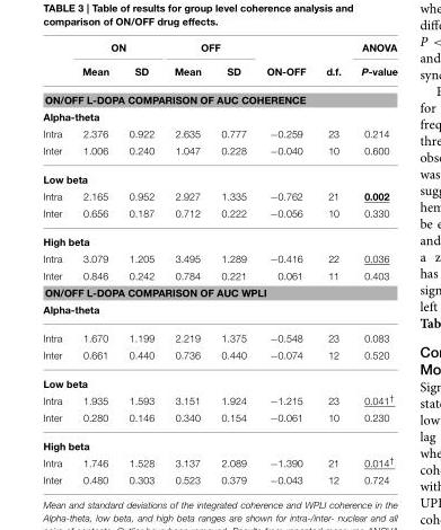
<table><thead><tr><td rowspan="2"></td><td colspan="2">ON</td><td colspan="2">OFF</td><td rowspan="2">ON-OFF</td><td rowspan="2">d.f.</td><td rowspan="2">ANOVA P-value</td></tr><tr><td>Mean</td><td>SD</td><td>Mean</td><td>SD</td></tr></thead><tbody><tr><td colspan="8">ON/OFF L-DOPA COMPARISON OF AUC COHERENCE</td></tr><tr><td colspan="8">Alpha-theta</td></tr><tr><td>Intra</td><td>2.376</td><td>0.922</td><td>2.635</td><td>0.777</td><td>−0.259</td><td>23</td><td>0.214</td></tr><tr><td>Inter</td><td>1.006</td><td>0.240</td><td>1.047</td><td>0.228</td><td>−0.040</td><td>10</td><td>0.600</td></tr><tr><td colspan="8">Low beta</td></tr><tr><td>Intra</td><td>2.165</td><td>0.952</td><td>2.927</td><td>1.335</td><td>−0.762</td><td>21</td><td>0.002</td></tr><tr><td>Inter</td><td>0.656</td><td>0.187</td><td>0.712</td><td>0.222</td><td>−0.056</td><td>10</td><td>0.330</td></tr><tr><td colspan="8">High beta</td></tr><tr><td>Intra</td><td>3.079</td><td>1.205</td><td>3.495</td><td>1.289</td><td>−0.416</td><td>22</td><td>0.036</td></tr><tr><td>Inter</td><td>0.846</td><td>0.242</td><td>0.784</td><td>0.221</td><td>0.061</td><td>11</td><td>0.403</td></tr><tr><td colspan="8">ON/OFF L-DOPA COMPARISON OF AUC WPLI</td></tr><tr><td colspan="8">Alpha-theta</td></tr><tr><td>Intra</td><td>1.670</td><td>1.199</td><td>2.219</td><td>1.375</td><td>−0.548</td><td>23</td><td>0.083</td></tr><tr><td>Inter</td><td>0.661</td><td>0.440</td><td>0.736</td><td>0.440</td><td>−0.074</td><td>12</td><td>0.520</td></tr><tr><td colspan="8">Low beta</td></tr><tr><td>Intra</td><td>1.935</td><td>1.593</td><td>3.151</td><td>1.924</td><td>−1.215</td><td>23</td><td>0.041<sup>†</sup></td></tr><tr><td>Inter</td><td>0.280</td><td>0.146</td><td>0.340</td><td>0.154</td><td>−0.061</td><td>10</td><td>0.230</td></tr><tr><td colspan="8">High beta</td></tr><tr><td>Intra</td><td>1.746</td><td>1.528</td><td>3.137</td><td>2.089</td><td>−1.390</td><td>21</td><td>0.014<sup>†</sup></td></tr><tr><td>Inter</td><td>0.480</td><td>0.303</td><td>0.523</td><td>0.379</td><td>−0.043</td><td>12</td><td>0.724</td></tr></tbody></table>